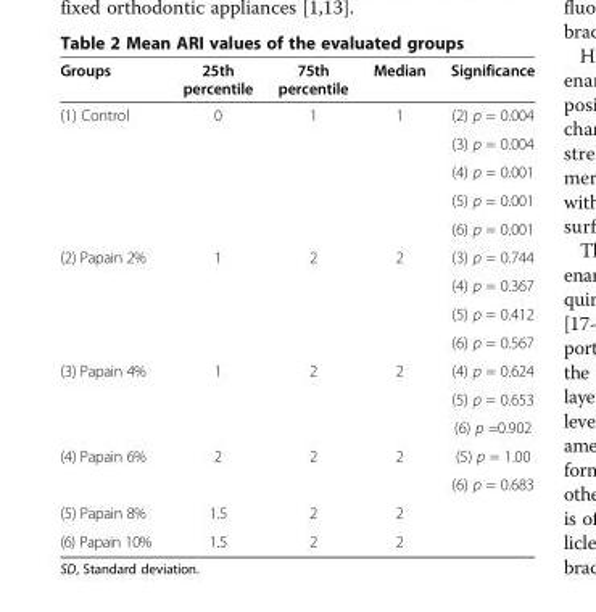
<table><thead><tr><td>Groups</td><td>25th percentile</td><td>75th percentile</td><td>Median</td><td>Significance</td></tr></thead><tbody><tr><td rowspan="5">(1) Control</td><td>0</td><td>1</td><td>1</td><td>(2) p = 0.004</td></tr><tr><td></td><td></td><td></td><td>(3) p = 0.004</td></tr><tr><td></td><td></td><td></td><td>(4) p = 0.001</td></tr><tr><td></td><td></td><td></td><td>(5) p = 0.001</td></tr><tr><td></td><td></td><td></td><td>(6) p = 0.001</td></tr><tr><td rowspan="4">(2) Papain 2%</td><td rowspan="2">1</td><td rowspan="2">2</td><td rowspan="2">2</td><td>(3) p = 0.744</td></tr><tr><td>(4) p = 0.367</td></tr><tr><td></td><td></td><td></td><td>(5) p = 0.412</td></tr><tr><td></td><td></td><td></td><td>(6) p = 0.567</td></tr><tr><td rowspan="3">(3) Papain 4%</td><td rowspan="2">1</td><td rowspan="2">2</td><td rowspan="2">2</td><td>(4) p = 0.624</td></tr><tr><td>(5) p = 0.653</td></tr><tr><td></td><td></td><td></td><td>(6) p =0.902</td></tr><tr><td rowspan="2">(4) Papain 6%</td><td rowspan="2">2</td><td rowspan="2">2</td><td rowspan="2">2</td><td>(5) p = 1.00</td></tr><tr><td>(6) p = 0.683</td></tr><tr><td>(5) Papain 8%</td><td>1.5</td><td>2</td><td>2</td><td></td></tr><tr><td>(6) Papain 10%</td><td>1.5</td><td>2</td><td>2</td><td></td></tr></tbody></table>